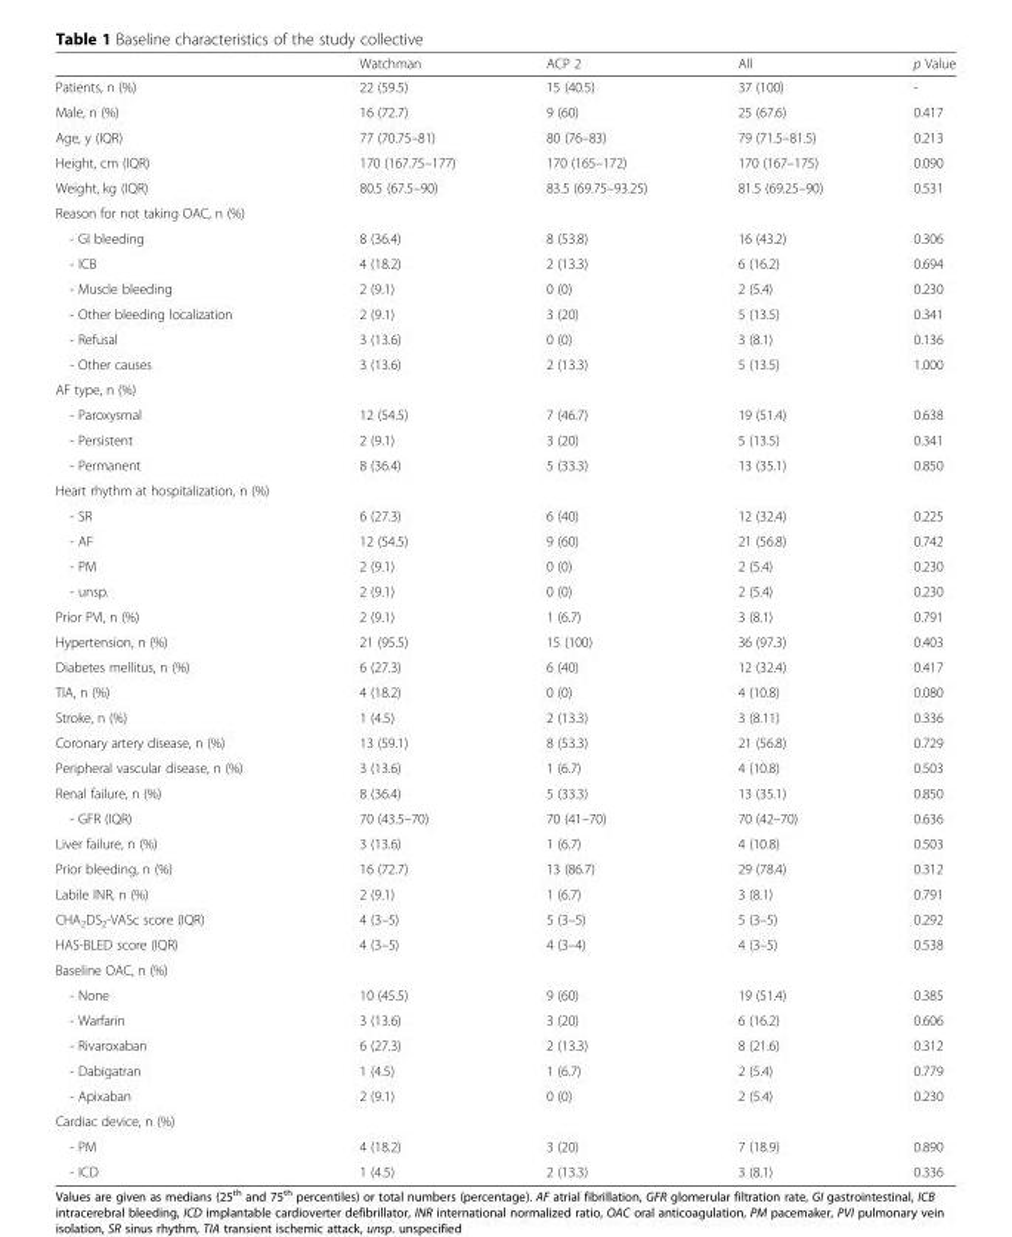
<table><thead><tr><td></td><td>Watchman</td><td>ACP 2</td><td>All</td><td>p Value</td></tr></thead><tbody><tr><td>Patients, n (%)</td><td>22 (59.5)</td><td>15 (40.5)</td><td>37 (100)</td><td>-</td></tr><tr><td>Male, n (%)</td><td>16 (72.7)</td><td>9 (60)</td><td>25 (67.6)</td><td>0.417</td></tr><tr><td>Age, y (IQR)</td><td>77 (70.75–81)</td><td>80 (76–83)</td><td>79 (71.5–81.5)</td><td>0.213</td></tr><tr><td>Height, cm (IQR)</td><td>170 (167.75–177)</td><td>170 (165–172)</td><td>170 (167–175)</td><td>0.090</td></tr><tr><td>Weight, kg (IQR)</td><td>80.5 (67.5–90)</td><td>83.5 (69.75–93.25)</td><td>81.5 (69.25–90)</td><td>0.531</td></tr><tr><td colspan="5">Reason for not taking OAC, n (%)</td></tr><tr><td>- GI bleeding</td><td>8 (36.4)</td><td>8 (53.8)</td><td>16 (43.2)</td><td>0.306</td></tr><tr><td>- ICB</td><td>4 (18.2)</td><td>2 (13.3)</td><td>6 (16.2)</td><td>0.694</td></tr><tr><td>- Muscle bleeding</td><td>2 (9.1)</td><td>0 (0)</td><td>2 (5.4)</td><td>0.230</td></tr><tr><td>- Other bleeding localization</td><td>2 (9.1)</td><td>3 (20)</td><td>5 (13.5)</td><td>0.341</td></tr><tr><td>- Refusal</td><td>3 (13.6)</td><td>0 (0)</td><td>3 (8.1)</td><td>0.136</td></tr><tr><td>- Other causes</td><td>3 (13.6)</td><td>2 (13.3)</td><td>5 (13.5)</td><td>1.000</td></tr><tr><td colspan="5">AF type, n (%)</td></tr><tr><td>- Paroxysmal</td><td>12 (54.5)</td><td>7 (46.7)</td><td>19 (51.4)</td><td>0.638</td></tr><tr><td>- Persistent</td><td>2 (9.1)</td><td>3 (20)</td><td>5 (13.5)</td><td>0.341</td></tr><tr><td>- Permanent</td><td>8 (36.4)</td><td>5 (33.3)</td><td>13 (35.1)</td><td>0.850</td></tr><tr><td colspan="5">Heart rhythm at hospitalization, n (%)</td></tr><tr><td>- SR</td><td>6 (27.3)</td><td>6 (40)</td><td>12 (32.4)</td><td>0.225</td></tr><tr><td>- AF</td><td>12 (54.5)</td><td>9 (60)</td><td>21 (56.8)</td><td>0.742</td></tr><tr><td>- PM</td><td>2 (9.1)</td><td>0 (0)</td><td>2 (5.4)</td><td>0.230</td></tr><tr><td>- unsp.</td><td>2 (9.1)</td><td>0 (0)</td><td>2 (5.4)</td><td>0.230</td></tr><tr><td>Prior PVI, n (%)</td><td>2 (9.1)</td><td>1 (6.7)</td><td>3 (8.1)</td><td>0.791</td></tr><tr><td>Hypertension, n (%)</td><td>21 (95.5)</td><td>15 (100)</td><td>36 (97.3)</td><td>0.403</td></tr><tr><td>Diabetes mellitus, n (%)</td><td>6 (27.3)</td><td>6 (40)</td><td>12 (32.4)</td><td>0.417</td></tr><tr><td>TIA, n (%)</td><td>4 (18.2)</td><td>0 (0)</td><td>4 (10.8)</td><td>0.080</td></tr><tr><td>Stroke, n (%)</td><td>1 (4.5)</td><td>2 (13.3)</td><td>3 (8.11)</td><td>0.336</td></tr><tr><td>Coronary artery disease, n (%)</td><td>13 (59.1)</td><td>8 (53.3)</td><td>21 (56.8)</td><td>0.729</td></tr><tr><td>Peripheral vascular disease, n (%)</td><td>3 (13.6)</td><td>1 (6.7)</td><td>4 (10.8)</td><td>0.503</td></tr><tr><td>Renal failure, n (%)</td><td>8 (36.4)</td><td>5 (33.3)</td><td>13 (35.1)</td><td>0.850</td></tr><tr><td>- GFR (IQR)</td><td>70 (43.5–70)</td><td>70 (41–70)</td><td>70 (42–70)</td><td>0.636</td></tr><tr><td>Liver failure, n (%)</td><td>3 (13.6)</td><td>1 (6.7)</td><td>4 (10.8)</td><td>0.503</td></tr><tr><td>Prior bleeding, n (%)</td><td>16 (72.7)</td><td>13 (86.7)</td><td>29 (78.4)</td><td>0.312</td></tr><tr><td>Labile INR, n (%)</td><td>2 (9.1)</td><td>1 (6.7)</td><td>3 (8.1)</td><td>0.791</td></tr><tr><td>CHA<sub>2</sub>DS<sub>2</sub>-VASc score (IQR)</td><td>4 (3–5)</td><td>5 (3–5)</td><td>5 (3–5)</td><td>0.292</td></tr><tr><td>HAS-BLED score (IQR)</td><td>4 (3–5)</td><td>4 (3–4)</td><td>4 (3–5)</td><td>0.538</td></tr><tr><td colspan="5">Baseline OAC, n (%)</td></tr><tr><td>- None</td><td>10 (45.5)</td><td>9 (60)</td><td>19 (51.4)</td><td>0.385</td></tr><tr><td>- Warfarin</td><td>3 (13.6)</td><td>3 (20)</td><td>6 (16.2)</td><td>0.606</td></tr><tr><td>- Rivaroxaban</td><td>6 (27.3)</td><td>2 (13.3)</td><td>8 (21.6)</td><td>0.312</td></tr><tr><td>- Dabigatran</td><td>1 (4.5)</td><td>1 (6.7)</td><td>2 (5.4)</td><td>0.779</td></tr><tr><td>- Apixaban</td><td>2 (9.1)</td><td>0 (0)</td><td>2 (5.4)</td><td>0.230</td></tr><tr><td colspan="5">Cardiac device, n (%)</td></tr><tr><td>- PM</td><td>4 (18.2)</td><td>3 (20)</td><td>7 (18.9)</td><td>0.890</td></tr><tr><td>- ICD</td><td>1 (4.5)</td><td>2 (13.3)</td><td>3 (8.1)</td><td>0.336</td></tr></tbody></table>